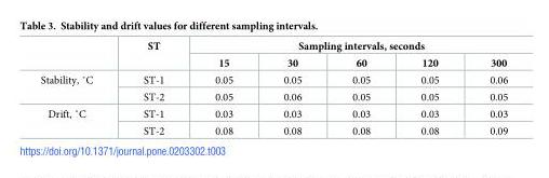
<table><thead><tr><td rowspan="2"></td><td rowspan="2">ST</td><td colspan="5">Sampling intervals, seconds</td></tr><tr><td>15</td><td>30</td><td>60</td><td>120</td><td>300</td></tr></thead><tbody><tr><td rowspan="2">Stability, ˚C</td><td>ST-1</td><td>0.05</td><td>0.05</td><td>0.05</td><td>0.05</td><td>0.06</td></tr><tr><td>ST-2</td><td>0.05</td><td>0.06</td><td>0.05</td><td>0.05</td><td>0.05</td></tr><tr><td rowspan="2">Drift, ˚C</td><td>ST-1</td><td>0.03</td><td>0.03</td><td>0.03</td><td>0.03</td><td>0.03</td></tr><tr><td>ST-2</td><td>0.08</td><td>0.08</td><td>0.08</td><td>0.08</td><td>0.09</td></tr></tbody></table>